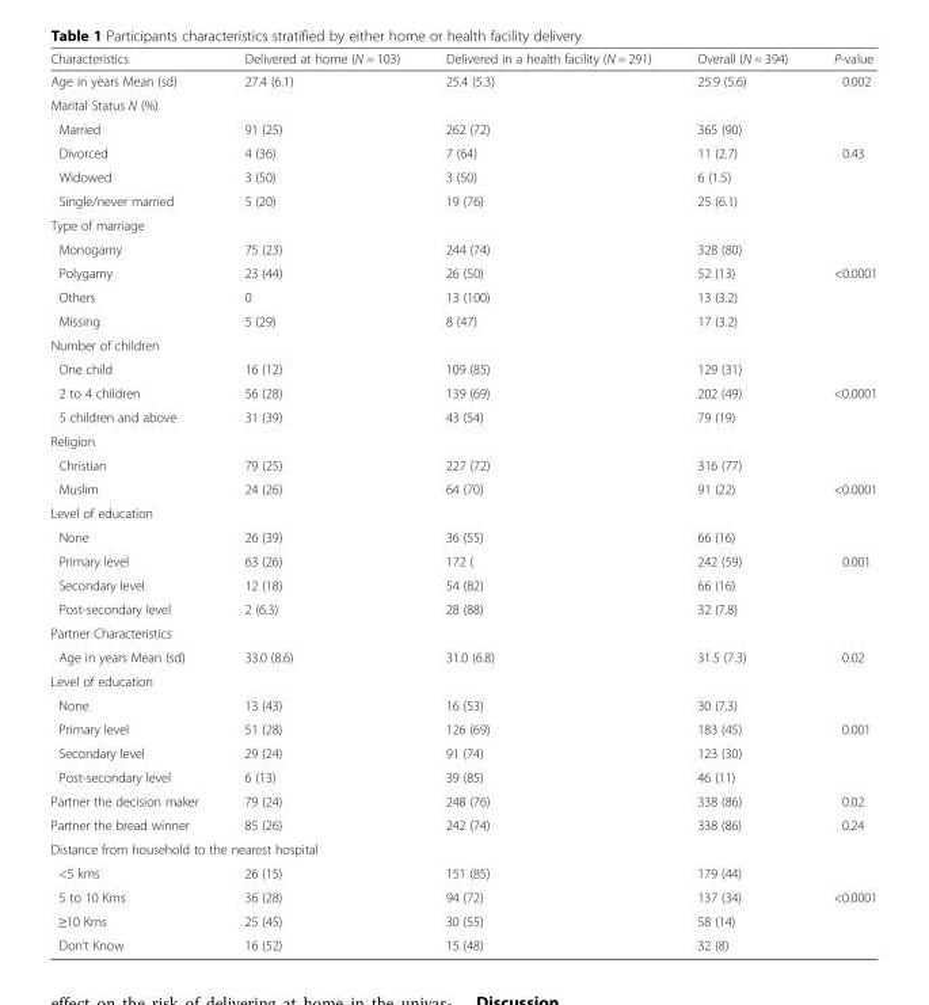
<table><thead><tr><td>Characteristics</td><td>Delivered at home (N = 103)</td><td>Delivered in a health facility (N = 291)</td><td>Overall (N = 394)</td><td>P-value</td></tr></thead><tbody><tr><td>Age in years Mean (sd)</td><td>27.4 (6.1)</td><td>25.4 (5.3)</td><td>25.9 (5.6)</td><td>0.002</td></tr><tr><td colspan="5">Marital Status N (%)</td></tr><tr><td>Married</td><td>91 (25)</td><td>262 (72)</td><td>365 (90)</td><td></td></tr><tr><td>Divorced</td><td>4 (36)</td><td>7 (64)</td><td>11 (2.7)</td><td>0.43</td></tr><tr><td>Widowed</td><td>3 (50)</td><td>3 (50)</td><td>6 (1.5)</td><td></td></tr><tr><td>Single/never married</td><td>5 (20)</td><td>19 (76)</td><td>25 (6.1)</td><td></td></tr><tr><td colspan="5">Type of marriage</td></tr><tr><td>Monogamy</td><td>75 (23)</td><td>244 (74)</td><td>328 (80)</td><td></td></tr><tr><td>Polygamy</td><td>23 (44)</td><td>26 (50)</td><td>52 (13)</td><td>&lt;0.0001</td></tr><tr><td>Others</td><td>0</td><td>13 (100)</td><td>13 (3.2)</td><td></td></tr><tr><td>Missing</td><td>5 (29)</td><td>8 (47)</td><td>17 (3.2)</td><td></td></tr><tr><td colspan="5">Number of children</td></tr><tr><td>One child</td><td>16 (12)</td><td>109 (85)</td><td>129 (31)</td><td></td></tr><tr><td>2 to 4 children</td><td>56 (28)</td><td>139 (69)</td><td>202 (49)</td><td>&lt;0.0001</td></tr><tr><td>5 children and above</td><td>31 (39)</td><td>43 (54)</td><td>79 (19)</td><td></td></tr><tr><td colspan="5">Religion</td></tr><tr><td>Christian</td><td>79 (25)</td><td>227 (72)</td><td>316 (77)</td><td></td></tr><tr><td>Muslim</td><td>24 (26)</td><td>64 (70)</td><td>91 (22)</td><td>&lt;0.0001</td></tr><tr><td colspan="5">Level of education</td></tr><tr><td>None</td><td>26 (39)</td><td>36 (55)</td><td>66 (16)</td><td></td></tr><tr><td>Primary level</td><td>63 (26)</td><td>172 (</td><td>242 (59)</td><td>0.001</td></tr><tr><td>Secondary level</td><td>12 (18)</td><td>54 (82)</td><td>66 (16)</td><td></td></tr><tr><td>Post-secondary level</td><td>2 (6.3)</td><td>28 (88)</td><td>32 (7.8)</td><td></td></tr><tr><td colspan="5">Partner Characteristics</td></tr><tr><td>Age in years Mean (sd)</td><td>33.0 (8.6)</td><td>31.0 (6.8)</td><td>31.5 (7.3)</td><td>0.02</td></tr><tr><td colspan="5">Level of education</td></tr><tr><td>None</td><td>13 (43)</td><td>16 (53)</td><td>30 (7.3)</td><td></td></tr><tr><td>Primary level</td><td>51 (28)</td><td>126 (69)</td><td>183 (45)</td><td>0.001</td></tr><tr><td>Secondary level</td><td>29 (24)</td><td>91 (74)</td><td>123 (30)</td><td></td></tr><tr><td>Post-secondary level</td><td>6 (13)</td><td>39 (85)</td><td>46 (11)</td><td></td></tr><tr><td>Partner the decision maker</td><td>79 (24)</td><td>248 (76)</td><td>338 (86)</td><td>0.02</td></tr><tr><td>Partner the bread winner</td><td>85 (26)</td><td>242 (74)</td><td>338 (86)</td><td>0.24</td></tr><tr><td colspan="5">Distance from household to the nearest hospital</td></tr><tr><td>&lt;5 kms</td><td>26 (15)</td><td>151 (85)</td><td>179 (44)</td><td></td></tr><tr><td>5 to 10 Kms</td><td>36 (28)</td><td>94 (72)</td><td>137 (34)</td><td>&lt;0.0001</td></tr><tr><td>≥10 Kms</td><td>25 (45)</td><td>30 (55)</td><td>58 (14)</td><td></td></tr><tr><td>Don’t Know</td><td>16 (52)</td><td>15 (48)</td><td>32 (8)</td><td></td></tr></tbody></table>